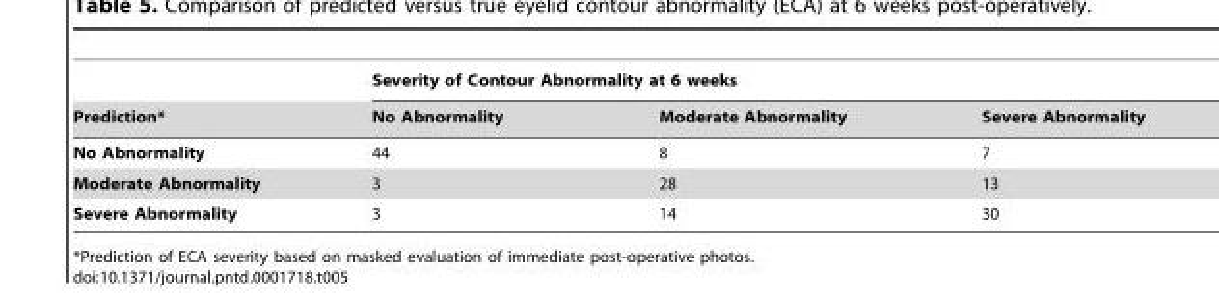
<table><thead><tr><td rowspan="2">Prediction*</td><td colspan="3">Severity of Contour Abnormality at 6 weeks</td></tr><tr><td>No Abnormality</td><td>Moderate Abnormality</td><td>Severe Abnormality</td></tr></thead><tbody><tr><td>No Abnormality</td><td>44</td><td>8</td><td>7</td></tr><tr><td>Moderate Abnormality</td><td>3</td><td>28</td><td>13</td></tr><tr><td>Severe Abnormality</td><td>3</td><td>14</td><td>30</td></tr></tbody></table>